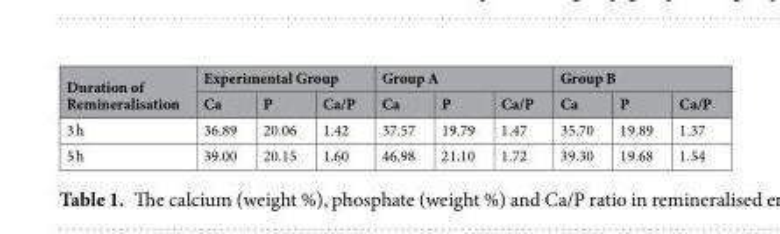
<table><thead><tr><td rowspan="2">Duration of Remineralisation</td><td colspan="3">Experimental Group</td><td colspan="3">Group A</td><td colspan="3">Group B</td></tr><tr><td>Ca</td><td>P</td><td>Ca/P</td><td>Ca</td><td>P</td><td>Ca/P</td><td>Ca</td><td>P</td><td>Ca/P</td></tr></thead><tbody><tr><td>3 h</td><td>36.89</td><td>20.06</td><td>1.42</td><td>37.57</td><td>19.79</td><td>1.47</td><td>35.70</td><td>19.89</td><td>1.37</td></tr><tr><td>5 h</td><td>39.00</td><td>20.15</td><td>1.60</td><td>46.98</td><td>21.10</td><td>1.72</td><td>39.30</td><td>19.68</td><td>1.54</td></tr></tbody></table>